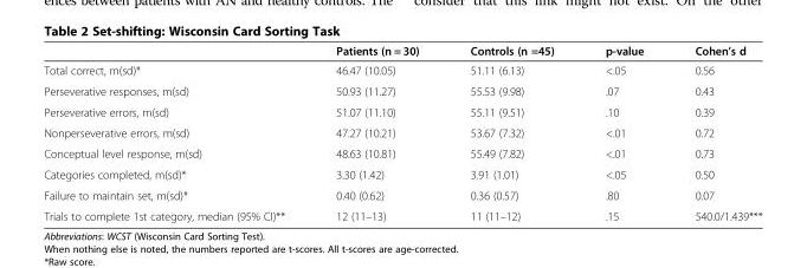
<table><thead><tr><td></td><td>Patients (n = 30)</td><td>Controls (n =45)</td><td>p-value</td><td>Cohen’s d</td></tr></thead><tbody><tr><td>Total correct, m(sd)*</td><td>46.47 (10.05)</td><td>51.11 (6.13)</td><td>&lt;.05</td><td>0.56</td></tr><tr><td>Perseverative responses, m(sd)</td><td>50.93 (11.27)</td><td>55.53 (9.98)</td><td>.07</td><td>0.43</td></tr><tr><td>Perseverative errors, m(sd)</td><td>51.07 (11.10)</td><td>55.11 (9.51)</td><td>.10</td><td>0.39</td></tr><tr><td>Nonperseverative errors, m(sd)</td><td>47.27 (10.21)</td><td>53.67 (7.32)</td><td>&lt;.01</td><td>0.72</td></tr><tr><td>Conceptual level response, m(sd)</td><td>48.63 (10.81)</td><td>55.49 (7.82)</td><td>&lt;.01</td><td>0.73</td></tr><tr><td>Categories completed, m(sd)*</td><td>3.30 (1.42)</td><td>3.91 (1.01)</td><td>&lt;.05</td><td>0.50</td></tr><tr><td>Failure to maintain set, m(sd)*</td><td>0.40 (0.62)</td><td>0.36 (0.57)</td><td>.80</td><td>0.07</td></tr><tr><td>Trials to complete 1st category, median (95% CI)**</td><td>12 (11–13)</td><td>11 (11–12)</td><td>.15</td><td>540.0/1.439***</td></tr></tbody></table>